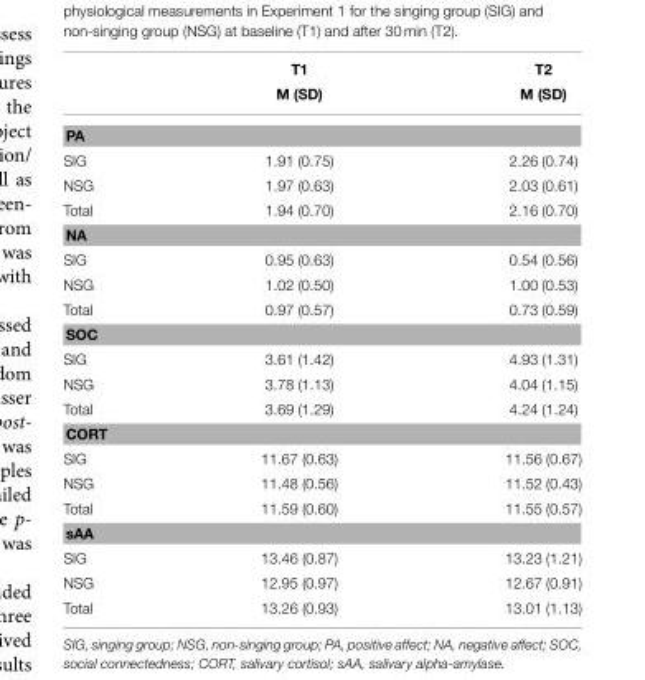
<table><thead><tr><td rowspan="2"></td><td rowspan="2">T1 M (SD)</td><td rowspan="2">T2 M (SD)</td></tr><tr></tr></thead><tbody><tr><td colspan="3">PA</td></tr><tr><td>SIG</td><td>1.91 (0.75)</td><td>2.26 (0.74)</td></tr><tr><td>NSG</td><td>1.97 (0.63)</td><td>2.03 (0.61)</td></tr><tr><td>Total</td><td>1.94 (0.70)</td><td>2.16 (0.70)</td></tr><tr><td colspan="3">NA</td></tr><tr><td>SIG</td><td>0.95 (0.63)</td><td>0.54 (0.56)</td></tr><tr><td>NSG</td><td>1.02 (0.50)</td><td>1.00 (0.53)</td></tr><tr><td>Total</td><td>0.97 (0.57)</td><td>0.73 (0.59)</td></tr><tr><td colspan="3">SOC</td></tr><tr><td>SIG</td><td>3.61 (1.42)</td><td>4.93 (1.31)</td></tr><tr><td>NSG</td><td>3.78 (1.13)</td><td>4.04 (1.15)</td></tr><tr><td>Total</td><td>3.69 (1.29)</td><td>4.24 (1.24)</td></tr><tr><td colspan="3">CORT</td></tr><tr><td>SIG</td><td>11.67 (0.63)</td><td>11.56 (0.67)</td></tr><tr><td>NSG</td><td>11.48 (0.56)</td><td>11.52 (0.43)</td></tr><tr><td>Total</td><td>11.59 (0.60)</td><td>11.55 (0.57)</td></tr><tr><td colspan="3">sAA</td></tr><tr><td>SIG</td><td>13.46 (0.87)</td><td>13.23 (1.21)</td></tr><tr><td>NSG</td><td>12.95 (0.97)</td><td>12.67 (0.91)</td></tr><tr><td>Total</td><td>13.26 (0.93)</td><td>13.01 (1.13)</td></tr></tbody></table>